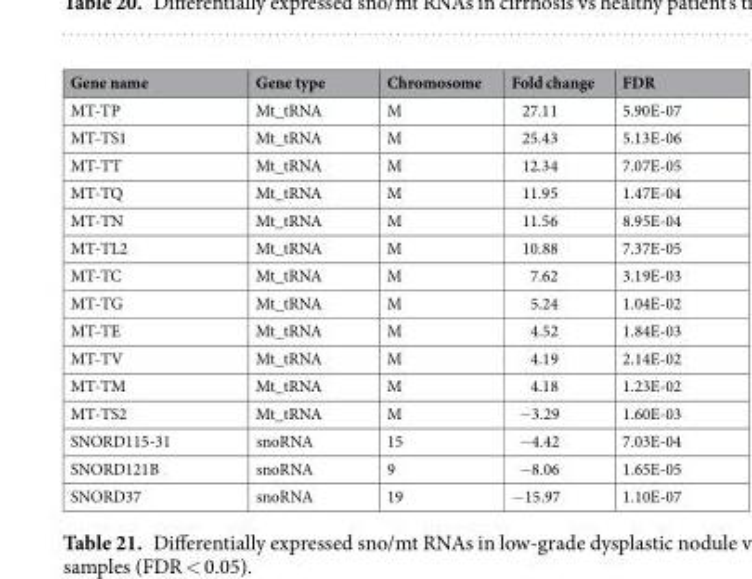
<table><thead><tr><td>Gene name</td><td>Gene type</td><td>Chromosome</td><td>Fold change</td><td>FDR</td></tr></thead><tbody><tr><td>MT-TP</td><td>Mt_tRNA</td><td>M</td><td>27.11</td><td>5.90E-07</td></tr><tr><td>MT-TS1</td><td>Mt_tRNA</td><td>M</td><td>25.43</td><td>5.13E-06</td></tr><tr><td>MT-TT</td><td>Mt_tRNA</td><td>M</td><td>12.34</td><td>7.07E-05</td></tr><tr><td>MT-TQ</td><td>Mt_tRNA</td><td>M</td><td>11.95</td><td>1.47E-04</td></tr><tr><td>MT-TN</td><td>Mt_tRNA</td><td>M</td><td>11.56</td><td>8.95E-04</td></tr><tr><td>MT-TL2</td><td>Mt_tRNA</td><td>M</td><td>10.88</td><td>7.37E-05</td></tr><tr><td>MT-TC</td><td>Mt_tRNA</td><td>M</td><td>7.62</td><td>3.19E-03</td></tr><tr><td>MT-TG</td><td>Mt_tRNA</td><td>M</td><td>5.24</td><td>1.04E-02</td></tr><tr><td>MT-TE</td><td>Mt_tRNA</td><td>M</td><td>4.52</td><td>1.84E-03</td></tr><tr><td>MT-TV</td><td>Mt_tRNA</td><td>M</td><td>4.19</td><td>2.14E-02</td></tr><tr><td>MT-TM</td><td>Mt_tRNA</td><td>M</td><td>4.18</td><td>1.23E-02</td></tr><tr><td>MT-TS2</td><td>Mt_tRNA</td><td>M</td><td>−3.29</td><td>1.60E-03</td></tr><tr><td>SNORD115-31</td><td>snoRNA</td><td>15</td><td>−4.42</td><td>7.03E-04</td></tr><tr><td>SNORD121B</td><td>snoRNA</td><td>9</td><td>−8.06</td><td>1.65E-05</td></tr><tr><td>SNORD37</td><td>snoRNA</td><td>19</td><td>−15.97</td><td>1.10E-07</td></tr></tbody></table>